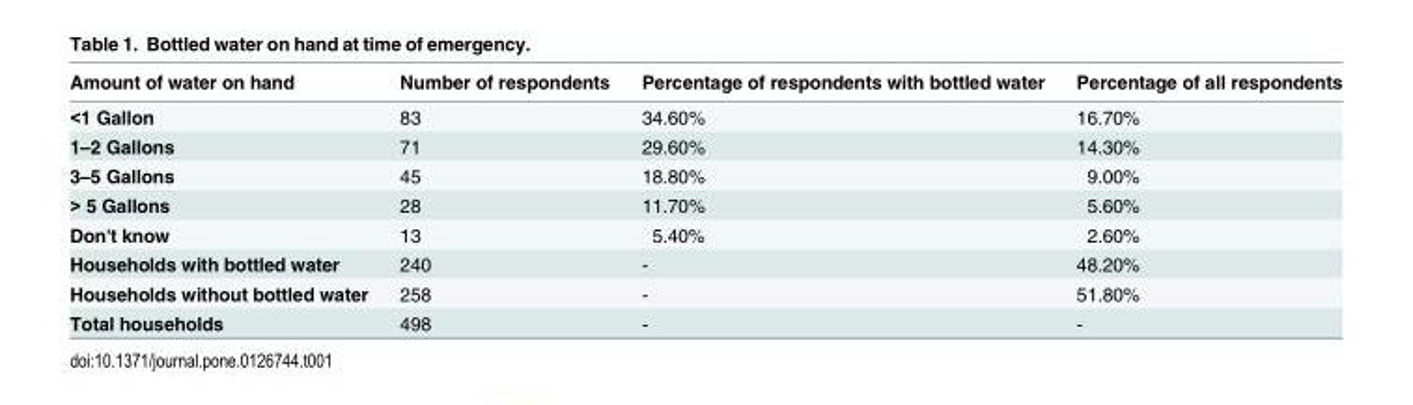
<table><thead><tr><td>Amount of water on hand</td><td>Number of respondents</td><td>Percentage of respondents with bottled water</td><td>Percentage of all respondents</td></tr></thead><tbody><tr><td>&lt;1 Gallon</td><td>83</td><td>34.60%</td><td>16.70%</td></tr><tr><td>1–2 Gallons</td><td>71</td><td>29.60%</td><td>14.30%</td></tr><tr><td>3–5 Gallons</td><td>45</td><td>18.80%</td><td>9.00%</td></tr><tr><td>&gt; 5 Gallons</td><td>28</td><td>11.70%</td><td>5.60%</td></tr><tr><td>Don&#x27;t know</td><td>13</td><td>5.40%</td><td>2.60%</td></tr><tr><td>Households with bottled water</td><td>240</td><td>-</td><td>48.20%</td></tr><tr><td>Households without bottled water</td><td>258</td><td>-</td><td>51.80%</td></tr><tr><td>Total households</td><td>498</td><td>-</td><td>-</td></tr></tbody></table>